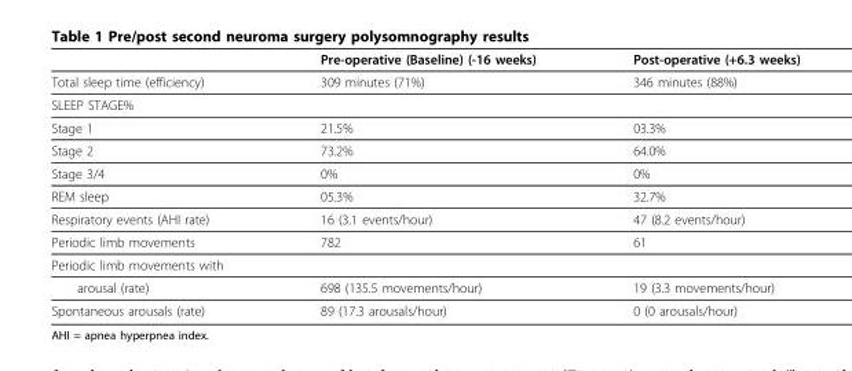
<table><thead><tr><td></td><td>Pre-operative (Baseline) (-16 weeks)</td><td>Post-operative (+6.3 weeks)</td></tr></thead><tbody><tr><td>Total sleep time (efficiency)</td><td>309 minutes (71%)</td><td>346 minutes (88%)</td></tr><tr><td colspan="3">SLEEP STAGE%</td></tr><tr><td>Stage 1</td><td>21.5%</td><td>03.3%</td></tr><tr><td>Stage 2</td><td>73.2%</td><td>64.0%</td></tr><tr><td>Stage 3/4</td><td>0%</td><td>0%</td></tr><tr><td>REM sleep</td><td>05.3%</td><td>32.7%</td></tr><tr><td>Respiratory events (AHI rate)</td><td>16 (3.1 events/hour)</td><td>47 (8.2 events/hour)</td></tr><tr><td>Periodic limb movements</td><td>782</td><td>61</td></tr><tr><td colspan="3">Periodic limb movements with</td></tr><tr><td>arousal (rate)</td><td>698 (135.5 movements/hour)</td><td>19 (3.3 movements/hour)</td></tr><tr><td>Spontaneous arousals (rate)</td><td>89 (17.3 arousals/hour)</td><td>0 (0 arousals/hour)</td></tr></tbody></table>